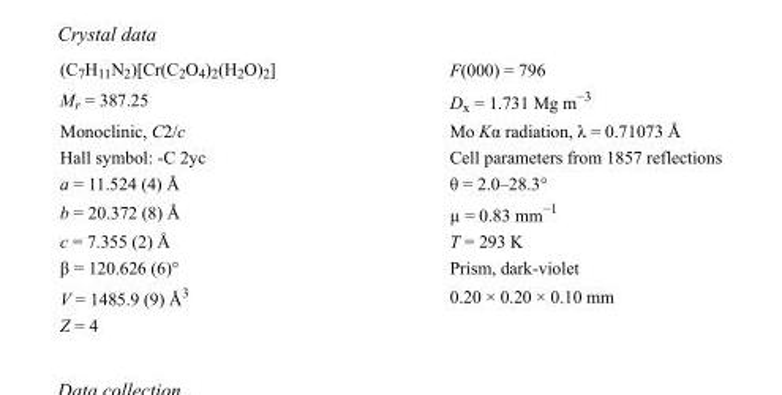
<table><tbody><tr><td>(C<sub>7</sub>H<sub>11</sub>N<sub>2</sub>)[Cr(C<sub>2</sub>O<sub>4</sub>)<sub>2</sub>(H<sub>2</sub>O)<sub>2</sub>]</td><td>F(000) = 796</td></tr><tr><td>M<sub>r</sub> = 387.25</td><td>D<sub>x</sub> = 1.731 Mg m<sup>−3</sup></td></tr><tr><td>Monoclinic, C2/c</td><td>Mo Kα radiation, λ = 0.71073 Å</td></tr><tr><td>Hall symbol: -C 2yc</td><td>Cell parameters from 1857 reflections</td></tr><tr><td>a = 11.524 (4) Å</td><td>θ = 2.0–28.3°</td></tr><tr><td>b = 20.372 (8) Å</td><td>µ = 0.83 mm<sup>−1</sup></td></tr><tr><td>c = 7.355 (2) Å</td><td>T = 293 K</td></tr><tr><td>β = 120.626 (6)°</td><td>Prism, dark-violet</td></tr><tr><td>V = 1485.9 (9) Å<sup>3</sup></td><td>0.20 × 0.20 × 0.10 mm</td></tr><tr><td>Z = 4</td><td></td></tr></tbody></table>